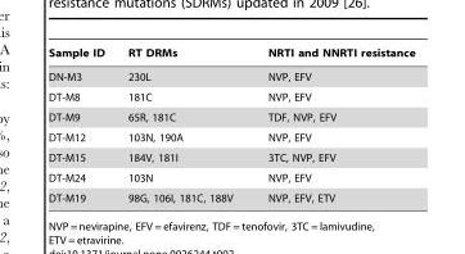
<table><thead><tr><td>Sample ID</td><td>RT DRMs</td><td>NRTI and NNRTI resistance</td></tr></thead><tbody><tr><td>DN-M3</td><td>230L</td><td>NVP, EFV</td></tr><tr><td>DT-M8</td><td>181C</td><td>NVP, EFV</td></tr><tr><td>DT-M9</td><td>65R, 181C</td><td>TDF, NVP, EFV</td></tr><tr><td>DT-M12</td><td>103N, 190A</td><td>NVP, EFV</td></tr><tr><td>DT-M15</td><td>184V, 181I</td><td>3TC, NVP, EFV</td></tr><tr><td>DT-M24</td><td>103N</td><td>NVP, EFV</td></tr><tr><td>DT-M19</td><td>98G, 106I, 181C, 188V</td><td>NVP, EFV, ETV</td></tr></tbody></table>